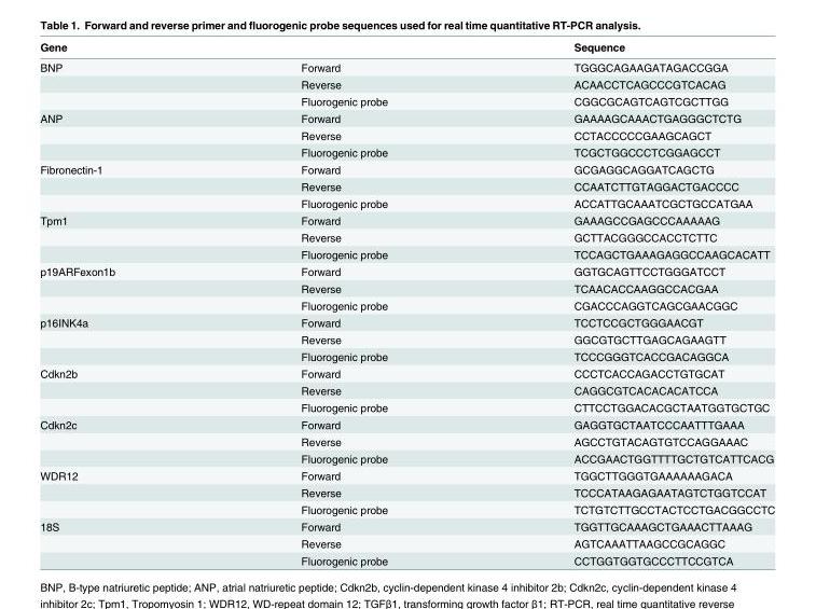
<table><thead><tr><td>Gene</td><td></td><td>Sequence</td></tr></thead><tbody><tr><td rowspan="3">BNP</td><td>Forward</td><td>TGGGCAGAAGATAGACCGGA</td></tr><tr><td>Reverse</td><td>ACAACCTCAGCCCGTCACAG</td></tr><tr><td>Fluorogenic probe</td><td>CGGCGCAGTCAGTCGCTTGG</td></tr><tr><td rowspan="3">ANP</td><td>Forward</td><td>GAAAAGCAAACTGAGGGCTCTG</td></tr><tr><td>Reverse</td><td>CCTACCCCCGAAGCAGCT</td></tr><tr><td>Fluorogenic probe</td><td>TCGCTGGCCCTCGGAGCCT</td></tr><tr><td rowspan="3">Fibronectin-1</td><td>Forward</td><td>GCGAGGCAGGATCAGCTG</td></tr><tr><td>Reverse</td><td>CCAATCTTGTAGGACTGACCCC</td></tr><tr><td>Fluorogenic probe</td><td>ACCATTGCAAATCGCTGCCATGAA</td></tr><tr><td rowspan="3">Tpm1</td><td>Forward</td><td>GAAAGCCGAGCCCAAAAAG</td></tr><tr><td>Reverse</td><td>GCTTACGGGCCACCTCTTC</td></tr><tr><td>Fluorogenic probe</td><td>TCCAGCTGAAAGAGGCCAAGCACATT</td></tr><tr><td rowspan="3">p19ARFexon1b</td><td>Forward</td><td>GGTGCAGTTCCTGGGATCCT</td></tr><tr><td>Reverse</td><td>TCAACACCAAGGCCACGAA</td></tr><tr><td>Fluorogenic probe</td><td>CGACCCAGGTCAGCGAACGGC</td></tr><tr><td rowspan="3">p16INK4a</td><td>Forward</td><td>TCCTCCGCTGGGAACGT</td></tr><tr><td>Reverse</td><td>GGCGTGCTTGAGCAGAAGTT</td></tr><tr><td>Fluorogenic probe</td><td>TCCCGGGTCACCGACAGGCA</td></tr><tr><td rowspan="3">Cdkn2b</td><td>Forward</td><td>CCCTCACCAGACCTGTGCAT</td></tr><tr><td>Reverse</td><td>CAGGCGTCACACACATCCA</td></tr><tr><td>Fluorogenic probe</td><td>CTTCCTGGACACGCTAATGGTGCTGC</td></tr><tr><td rowspan="3">Cdkn2c</td><td>Forward</td><td>GAGGTGCTAATCCCAATTTGAAA</td></tr><tr><td>Reverse</td><td>AGCCTGTACAGTGTCCAGGAAAC</td></tr><tr><td>Fluorogenic probe</td><td>ACCGAACTGGTTTTGCTGTCATTCACG</td></tr><tr><td rowspan="3">WDR12</td><td>Forward</td><td>TGGCTTGGGTGAAAAAAGACA</td></tr><tr><td>Reverse</td><td>TCCCATAAGAGAATAGTCTGGTCCAT</td></tr><tr><td>Fluorogenic probe</td><td>TCTGTCTTGCCTACTCCTGACGGCCTC</td></tr><tr><td rowspan="3">18S</td><td>Forward</td><td>TGGTTGCAAAGCTGAAACTTAAAG</td></tr><tr><td>Reverse</td><td>AGTCAAATTAAGCCGCAGGC</td></tr><tr><td>Fluorogenic probe</td><td>CCTGGTGGTGCCCTTCCGTCA</td></tr></tbody></table>